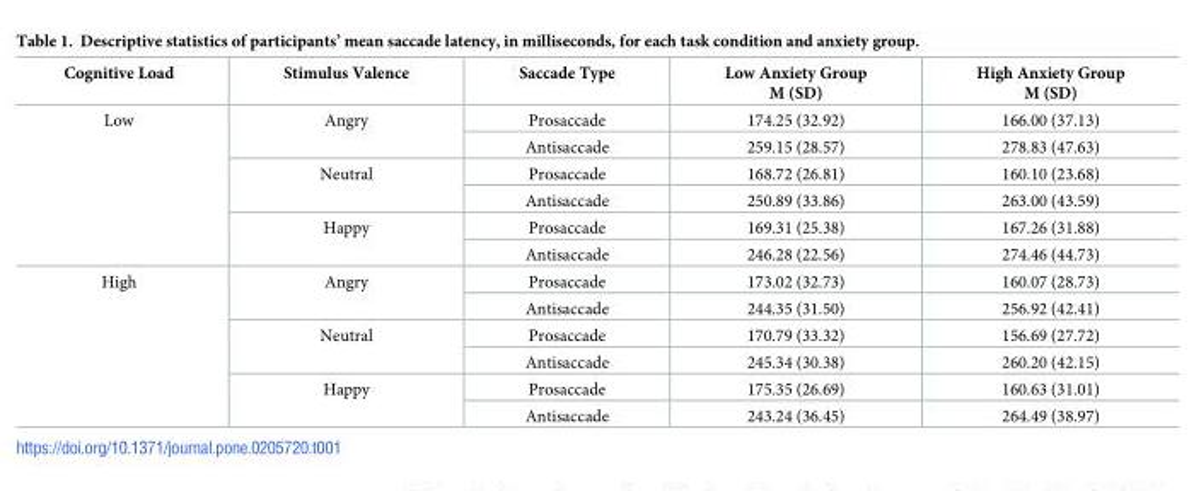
<table><thead><tr><td>Cognitive Load</td><td>Stimulus Valence</td><td>Saccade Type</td><td>Low Anxiety Group M (SD)</td><td>High Anxiety Group M (SD)</td></tr></thead><tbody><tr><td rowspan="6">Low</td><td rowspan="2">Angry</td><td>Prosaccade</td><td>174.25 (32.92)</td><td>166.00 (37.13)</td></tr><tr><td>Antisaccade</td><td>259.15 (28.57)</td><td>278.83 (47.63)</td></tr><tr><td rowspan="2">Neutral</td><td>Prosaccade</td><td>168.72 (26.81)</td><td>160.10 (23.68)</td></tr><tr><td>Antisaccade</td><td>250.89 (33.86)</td><td>263.00 (43.59)</td></tr><tr><td rowspan="2">Happy</td><td>Prosaccade</td><td>169.31 (25.38)</td><td>167.26 (31.88)</td></tr><tr><td>Antisaccade</td><td>246.28 (22.56)</td><td>274.46 (44.73)</td></tr><tr><td rowspan="6">High</td><td rowspan="2">Angry</td><td>Prosaccade</td><td>173.02 (32.73)</td><td>160.07 (28.73)</td></tr><tr><td>Antisaccade</td><td>244.35 (31.50)</td><td>256.92 (42.41)</td></tr><tr><td rowspan="2">Neutral</td><td>Prosaccade</td><td>170.79 (33.32)</td><td>156.69 (27.72)</td></tr><tr><td>Antisaccade</td><td>245.34 (30.38)</td><td>260.20 (42.15)</td></tr><tr><td rowspan="2">Happy</td><td>Prosaccade</td><td>175.35 (26.69)</td><td>160.63 (31.01)</td></tr><tr><td>Antisaccade</td><td>243.24 (36.45)</td><td>264.49 (38.97)</td></tr></tbody></table>